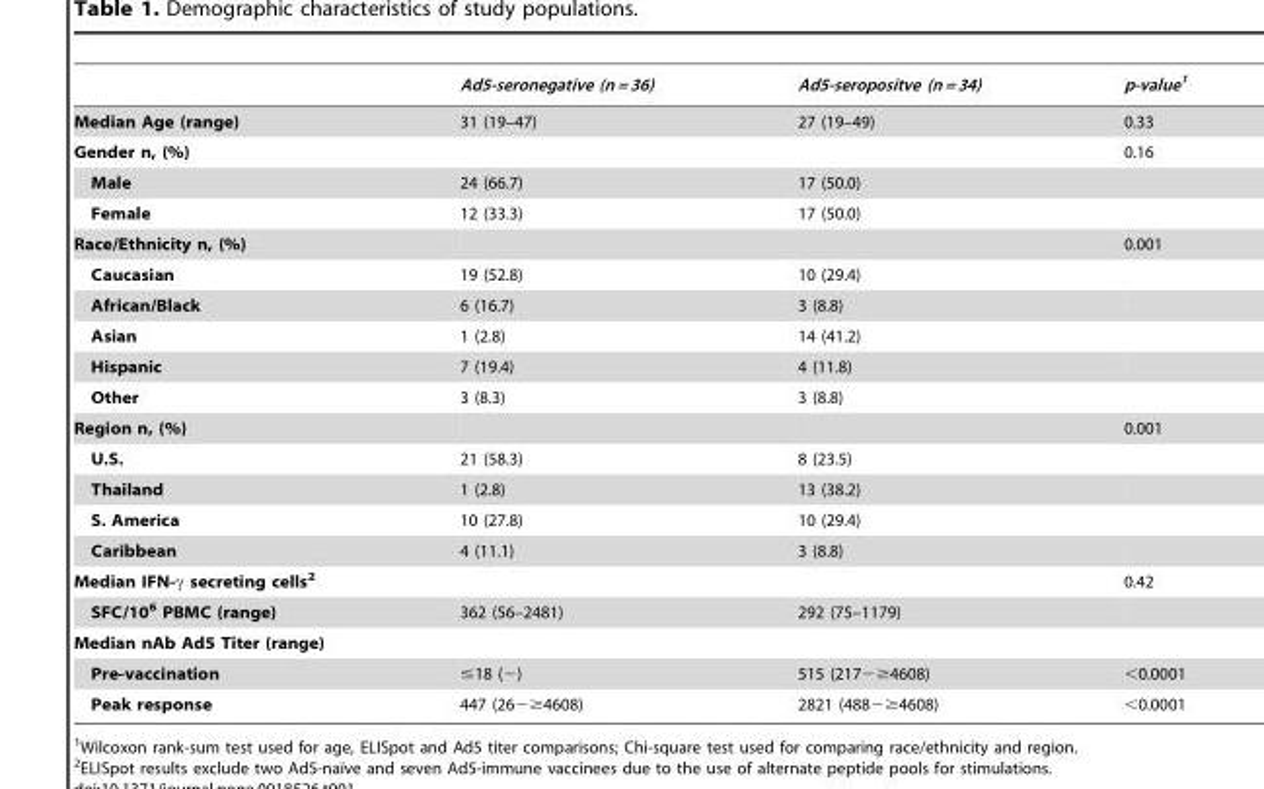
<table><thead><tr><td></td><td>Ad5-seronegative (n = 36)</td><td>Ad5-seropositve (n = 34)</td><td>p-value<sup>1</sup></td></tr></thead><tbody><tr><td>Median Age (range)</td><td>31 (19–47)</td><td>27 (19–49)</td><td>0.33</td></tr><tr><td>Gender n, (%)</td><td></td><td></td><td>0.16</td></tr><tr><td>Male</td><td>24 (66.7)</td><td>17 (50.0)</td><td></td></tr><tr><td>Female</td><td>12 (33.3)</td><td>17 (50.0)</td><td></td></tr><tr><td>Race/Ethnicity n, (%)</td><td></td><td></td><td>0.001</td></tr><tr><td>Caucasian</td><td>19 (52.8)</td><td>10 (29.4)</td><td></td></tr><tr><td>African/Black</td><td>6 (16.7)</td><td>3 (8.8)</td><td></td></tr><tr><td>Asian</td><td>1 (2.8)</td><td>14 (41.2)</td><td></td></tr><tr><td>Hispanic</td><td>7 (19.4)</td><td>4 (11.8)</td><td></td></tr><tr><td>Other</td><td>3 (8.3)</td><td>3 (8.8)</td><td></td></tr><tr><td>Region n, (%)</td><td></td><td></td><td>0.001</td></tr><tr><td>U.S.</td><td>21 (58.3)</td><td>8 (23.5)</td><td></td></tr><tr><td>Thailand</td><td>1 (2.8)</td><td>13 (38.2)</td><td></td></tr><tr><td>S. America</td><td>10 (27.8)</td><td>10 (29.4)</td><td></td></tr><tr><td>Caribbean</td><td>4 (11.1)</td><td>3 (8.8)</td><td></td></tr><tr><td>Median IFN-γ secreting cells2</td><td></td><td></td><td>0.42</td></tr><tr><td>SFC/10<sup>6</sup> PBMC (range)</td><td>362 (56–2481)</td><td>292 (75–1179)</td><td></td></tr><tr><td colspan="4">Median nAb Ad5 Titer (range)</td></tr><tr><td>Pre-vaccination</td><td>≤18 (−)</td><td>515 (217−≥4608)</td><td>&lt;0.0001</td></tr><tr><td>Peak response</td><td>447 (26−≥4608)</td><td>2821 (488−≥4608)</td><td>&lt;0.0001</td></tr></tbody></table>